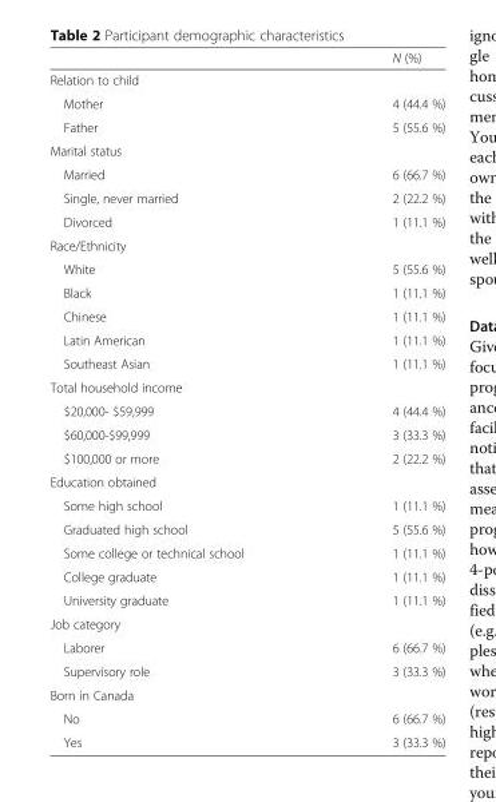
<table><thead><tr><td></td><td>N (%)</td></tr></thead><tbody><tr><td colspan="2">Relation to child</td></tr><tr><td>Mother</td><td>4 (44.4 %)</td></tr><tr><td>Father</td><td>5 (55.6 %)</td></tr><tr><td colspan="2">Marital status</td></tr><tr><td>Married</td><td>6 (66.7 %)</td></tr><tr><td>Single, never married</td><td>2 (22.2 %)</td></tr><tr><td>Divorced</td><td>1 (11.1 %)</td></tr><tr><td colspan="2">Race/Ethnicity</td></tr><tr><td>White</td><td>5 (55.6 %)</td></tr><tr><td>Black</td><td>1 (11.1 %)</td></tr><tr><td>Chinese</td><td>1 (11.1 %)</td></tr><tr><td>Latin American</td><td>1 (11.1 %)</td></tr><tr><td>Southeast Asian</td><td>1 (11.1 %)</td></tr><tr><td colspan="2">Total household income</td></tr><tr><td>$20,000- $59,999</td><td>4 (44.4 %)</td></tr><tr><td>$60,000-$99,999</td><td>3 (33.3 %)</td></tr><tr><td>$100,000 or more</td><td>2 (22.2 %)</td></tr><tr><td colspan="2">Education obtained</td></tr><tr><td>Some high school</td><td>1 (11.1 %)</td></tr><tr><td>Graduated high school</td><td>5 (55.6 %)</td></tr><tr><td>Some college or technical school</td><td>1 (11.1 %)</td></tr><tr><td>College graduate</td><td>1 (11.1 %)</td></tr><tr><td>University graduate</td><td>1 (11.1 %)</td></tr><tr><td colspan="2">Job category</td></tr><tr><td>Laborer</td><td>6 (66.7 %)</td></tr><tr><td>Supervisory role</td><td>3 (33.3 %)</td></tr><tr><td colspan="2">Born in Canada</td></tr><tr><td>No</td><td>6 (66.7 %)</td></tr><tr><td>Yes</td><td>3 (33.3 %)</td></tr></tbody></table>